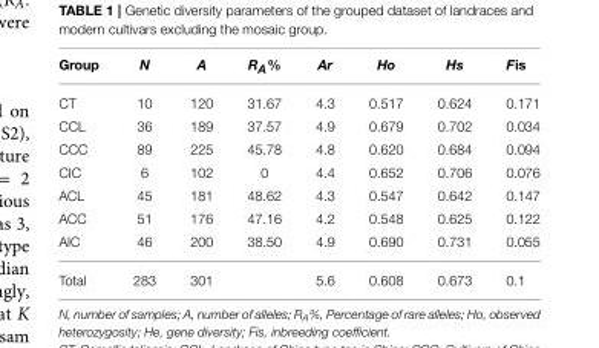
<table><thead><tr><td>Group</td><td>N</td><td>A</td><td>RA%</td><td>Ar</td><td>Ho</td><td>Hs</td><td>Fis</td></tr></thead><tbody><tr><td>CT</td><td>10</td><td>120</td><td>31.67</td><td>4.3</td><td>0.517</td><td>0.624</td><td>0.171</td></tr><tr><td>CCL</td><td>36</td><td>189</td><td>37.57</td><td>4.9</td><td>0.679</td><td>0.702</td><td>0.034</td></tr><tr><td>CCC</td><td>89</td><td>225</td><td>45.78</td><td>4.8</td><td>0.620</td><td>0.684</td><td>0.094</td></tr><tr><td>CIC</td><td>6</td><td>102</td><td>0</td><td>4.4</td><td>0.652</td><td>0.706</td><td>0.076</td></tr><tr><td>ACL</td><td>45</td><td>181</td><td>48.62</td><td>4.3</td><td>0.547</td><td>0.642</td><td>0.147</td></tr><tr><td>ACC</td><td>51</td><td>176</td><td>47.16</td><td>4.2</td><td>0.548</td><td>0.625</td><td>0.122</td></tr><tr><td>AIC</td><td>46</td><td>200</td><td>38.50</td><td>4.9</td><td>0.690</td><td>0.731</td><td>0.055</td></tr><tr><td>Total</td><td>283</td><td>301</td><td></td><td>5.6</td><td>0.608</td><td>0.673</td><td>0.1</td></tr></tbody></table>